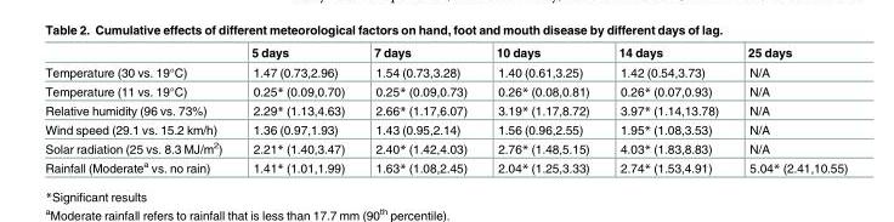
<table><thead><tr><td></td><td>5 days</td><td>7 days</td><td>10 days</td><td>14 days</td><td>25 days</td></tr></thead><tbody><tr><td>Temperature (30 vs. 19°C)</td><td>1.47 (0.73,2.96)</td><td>1.54 (0.73,3.28)</td><td>1.40 (0.61,3.25)</td><td>1.42 (0.54,3.73)</td><td>N/A</td></tr><tr><td>Temperature (11 vs. 19°C)</td><td>0.25* (0.09,0.70)</td><td>0.25* (0.09,0.73)</td><td>0.26* (0.08,0.81)</td><td>0.26* (0.07,0.93)</td><td>N/A</td></tr><tr><td>Relative humidity (96 vs. 73%)</td><td>2.29* (1.13,4.63)</td><td>2.66* (1.17,6.07)</td><td>3.19* (1.17,8.72)</td><td>3.97* (1.14,13.78)</td><td>N/A</td></tr><tr><td>Wind speed (29.1 vs. 15.2 km/h)</td><td>1.36 (0.97,1.93)</td><td>1.43 (0.95,2.14)</td><td>1.56 (0.96,2.55)</td><td>1.95* (1.08,3.53)</td><td>N/A</td></tr><tr><td>Solar radiation (25 vs. 8.3 MJ/m<sup>2</sup>)</td><td>2.21* (1.40,3.47)</td><td>2.40* (1.42,4.03)</td><td>2.76* (1.48,5.15)</td><td>4.03* (1.83,8.83)</td><td>N/A</td></tr><tr><td>Rainfall (Moderate<sup>a</sup> vs. no rain)</td><td>1.41* (1.01,1.99)</td><td>1.63* (1.08,2.45)</td><td>2.04* (1.25,3.33)</td><td>2.74* (1.53,4.91)</td><td>5.04* (2.41,10.55)</td></tr></tbody></table>